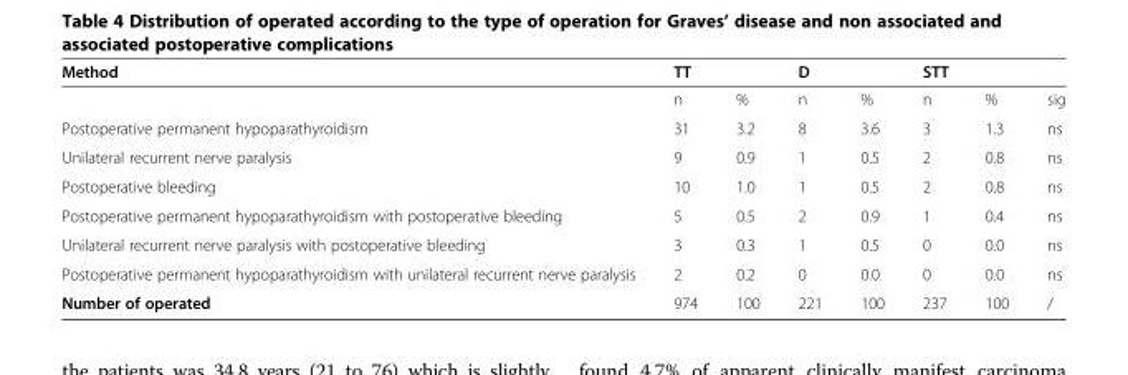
<table><thead><tr><td rowspan="2">Method</td><td colspan="2">TT</td><td colspan="2">D</td><td colspan="2">STT</td><td rowspan="2">sig</td></tr><tr><td>n</td><td>%</td><td>n</td><td>%</td><td>n</td><td>%</td></tr></thead><tbody><tr><td>Postoperative permanent hypoparathyroidism</td><td>31</td><td>3.2</td><td>8</td><td>3.6</td><td>3</td><td>1.3</td><td>ns</td></tr><tr><td>Unilateral recurrent nerve paralysis</td><td>9</td><td>0.9</td><td>1</td><td>0.5</td><td>2</td><td>0.8</td><td>ns</td></tr><tr><td>Postoperative bleeding</td><td>10</td><td>1.0</td><td>1</td><td>0.5</td><td>2</td><td>0.8</td><td>ns</td></tr><tr><td>Postoperative permanent hypoparathyroidism with postoperative bleeding</td><td>5</td><td>0.5</td><td>2</td><td>0.9</td><td>1</td><td>0.4</td><td>ns</td></tr><tr><td>Unilateral recurrent nerve paralysis with postoperative bleeding</td><td>3</td><td>0.3</td><td>1</td><td>0.5</td><td>0</td><td>0.0</td><td>ns</td></tr><tr><td>Postoperative permanent hypoparathyroidism with unilateral recurrent nerve paralysis</td><td>2</td><td>0.2</td><td>0</td><td>0.0</td><td>0</td><td>0.0</td><td>ns</td></tr><tr><td>Number of operated</td><td>974</td><td>100</td><td>221</td><td>100</td><td>237</td><td>100</td><td>/</td></tr></tbody></table>